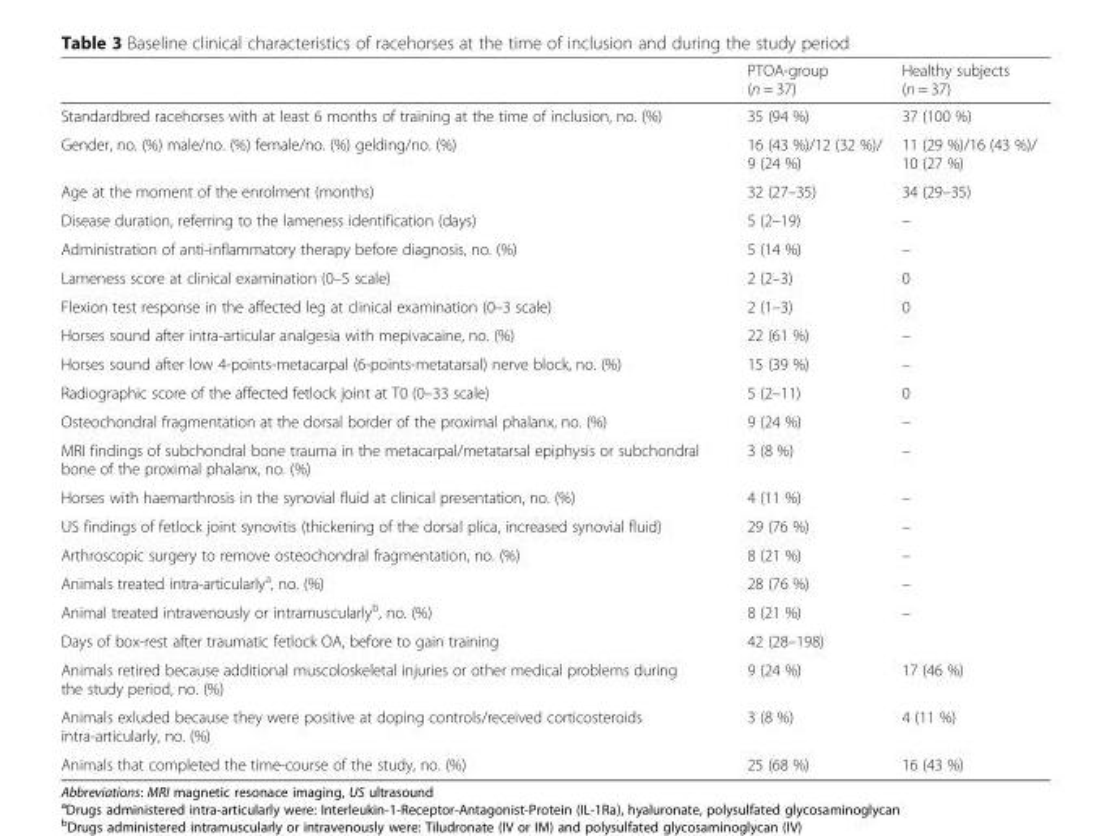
<table><thead><tr><td></td><td>PTOA-group (n = 37)</td><td>Healthy subjects (n = 37)</td></tr></thead><tbody><tr><td>Standardbred racehorses with at least 6 months of training at the time of inclusion, no. (%)</td><td>35 (94 %)</td><td>37 (100 %)</td></tr><tr><td>Gender, no. (%) male/no. (%) female/no. (%) gelding/no. (%)</td><td>16 (43 %)/12 (32 %)/ 9 (24 %)</td><td>11 (29 %)/16 (43 %)/ 10 (27 %)</td></tr><tr><td>Age at the moment of the enrolment (months)</td><td>32 (27–35)</td><td>34 (29–35)</td></tr><tr><td>Disease duration, referring to the lameness identification (days)</td><td>5 (2–19)</td><td>–</td></tr><tr><td>Administration of anti-inflammatory therapy before diagnosis, no. (%)</td><td>5 (14 %)</td><td>–</td></tr><tr><td>Lameness score at clinical examination (0–5 scale)</td><td>2 (2–3)</td><td>0</td></tr><tr><td>Flexion test response in the affected leg at clinical examination (0–3 scale)</td><td>2 (1–3)</td><td>0</td></tr><tr><td>Horses sound after intra-articular analgesia with mepivacaine, no. (%)</td><td>22 (61 %)</td><td>–</td></tr><tr><td>Horses sound after low 4-points-metacarpal (6-points-metatarsal) nerve block, no. (%)</td><td>15 (39 %)</td><td>–</td></tr><tr><td>Radiographic score of the affected fetlock joint at T0 (0–33 scale)</td><td>5 (2–11)</td><td>0</td></tr><tr><td>Osteochondral fragmentation at the dorsal border of the proximal phalanx, no. (%)</td><td>9 (24 %)</td><td>–</td></tr><tr><td>MRI findings of subchondral bone trauma in the metacarpal/metatarsal epiphysis or subchondral bone of the proximal phalanx, no. (%)</td><td>3 (8 %)</td><td>–</td></tr><tr><td>Horses with haemarthrosis in the synovial fluid at clinical presentation, no. (%)</td><td>4 (11 %)</td><td>–</td></tr><tr><td>US findings of fetlock joint synovitis (thickening of the dorsal plica, increased synovial fluid)</td><td>29 (76 %)</td><td>–</td></tr><tr><td>Arthroscopic surgery to remove osteochondral fragmentation, no. (%)</td><td>8 (21 %)</td><td>–</td></tr><tr><td>Animals treated intra-articularly<sup>a</sup>, no. (%)</td><td>28 (76 %)</td><td>–</td></tr><tr><td>Animal treated intravenously or intramuscularly<sup>b</sup>, no. (%)</td><td>8 (21 %)</td><td>–</td></tr><tr><td>Days of box-rest after traumatic fetlock OA, before to gain training</td><td>42 (28–198)</td><td></td></tr><tr><td>Animals retired because additional muscoloskeletal injuries or other medical problems during the study period, no. (%)</td><td>9 (24 %)</td><td>17 (46 %)</td></tr><tr><td>Animals exluded because they were positive at doping controls/received corticosteroids intra-articularly, no. (%)</td><td>3 (8 %)</td><td>4 (11 %)</td></tr><tr><td>Animals that completed the time-course of the study, no. (%)</td><td>25 (68 %)</td><td>16 (43 %)</td></tr></tbody></table>